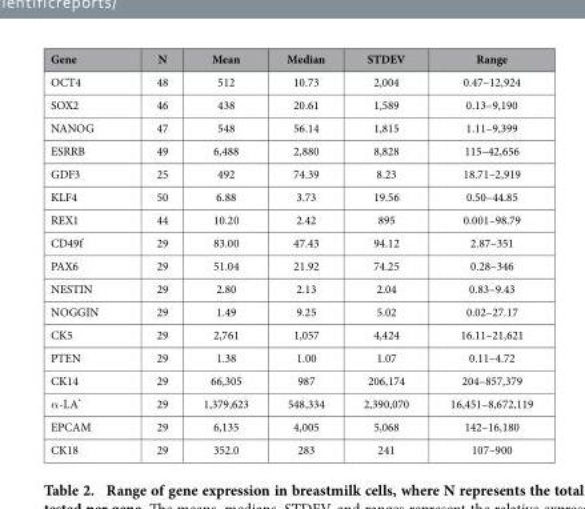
<table><thead><tr><td>Gene</td><td>N</td><td>Mean</td><td>Median</td><td>STDEV</td><td>Range</td></tr></thead><tbody><tr><td>OCT4</td><td>48</td><td>512</td><td>10.73</td><td>2,004</td><td>0.47–12,924</td></tr><tr><td>SOX2</td><td>46</td><td>438</td><td>20.61</td><td>1,589</td><td>0.13–9,190</td></tr><tr><td>NANOG</td><td>47</td><td>548</td><td>56.14</td><td>1,815</td><td>1.11–9,399</td></tr><tr><td>ESRRB</td><td>49</td><td>6,488</td><td>2,880</td><td>8,828</td><td>115–42,656</td></tr><tr><td>GDF3</td><td>25</td><td>492</td><td>74.39</td><td>8.23</td><td>18.71–2,919</td></tr><tr><td>KLF4</td><td>50</td><td>6.88</td><td>3.73</td><td>19.56</td><td>0.50–44.85</td></tr><tr><td>REX1</td><td>44</td><td>10.20</td><td>2.42</td><td>895</td><td>0.001–98.79</td></tr><tr><td>CD49f</td><td>29</td><td>83.00</td><td>47.43</td><td>94.12</td><td>2.87–351</td></tr><tr><td>PAX6</td><td>29</td><td>51.04</td><td>21.92</td><td>74.25</td><td>0.28–346</td></tr><tr><td>NESTIN</td><td>29</td><td>2.80</td><td>2.13</td><td>2.04</td><td>0.83–9.43</td></tr><tr><td>NOGGIN</td><td>29</td><td>1.49</td><td>9.25</td><td>5.02</td><td>0.02–27.17</td></tr><tr><td>CK5</td><td>29</td><td>2,761</td><td>1,057</td><td>4,424</td><td>16.11–21,621</td></tr><tr><td>PTEN</td><td>29</td><td>1.38</td><td>1.00</td><td>1.07</td><td>0.11–4.72</td></tr><tr><td>CK14</td><td>29</td><td>66,305</td><td>987</td><td>206,174</td><td>204–857,379</td></tr><tr><td>α -LA*</td><td>29</td><td>1,379,623</td><td>548,334</td><td>2,390,070</td><td>16,451–8,672,119</td></tr><tr><td>EPCAM</td><td>29</td><td>6,135</td><td>4,005</td><td>5,068</td><td>142–16,180</td></tr><tr><td>CK18</td><td>29</td><td>352.0</td><td>283</td><td>241</td><td>107–900</td></tr></tbody></table>